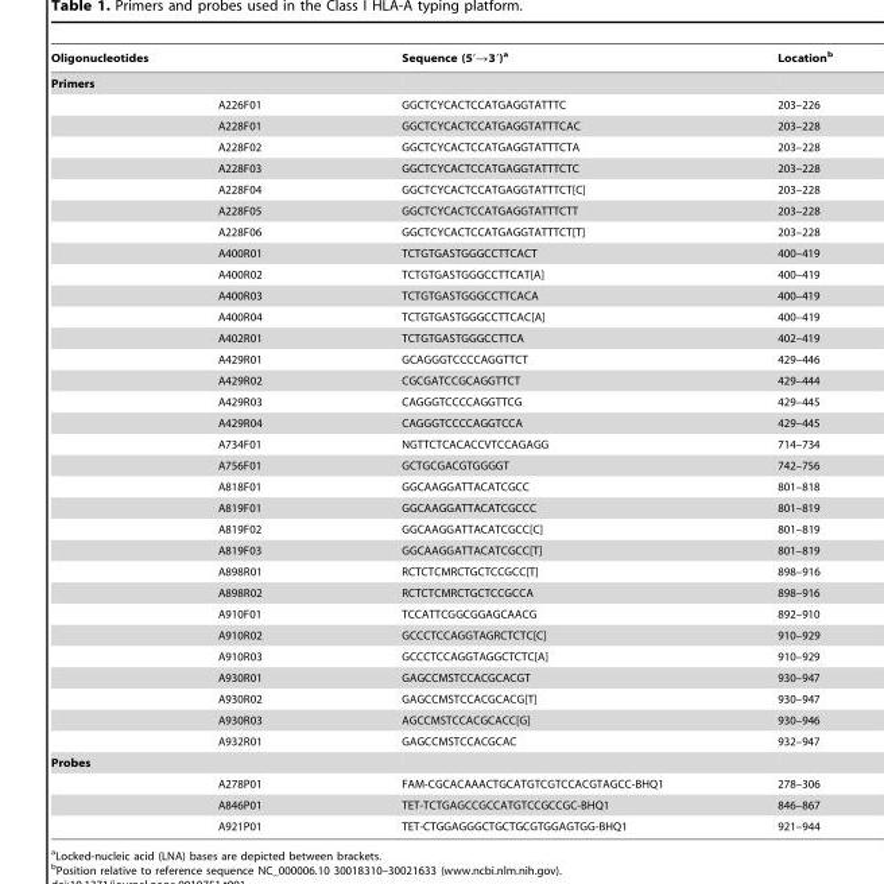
<table><thead><tr><td colspan="2">Oligonucleotides</td><td rowspan="2">Sequence (5′→3′)<sup>a</sup></td><td rowspan="2">Location<sup>b</sup></td></tr><tr><td>Primers</td><td></td></tr></thead><tbody><tr><td></td><td>A226F01</td><td>GGCTCYCACTCCATGAGGTATTTC</td><td>203–226</td></tr><tr><td></td><td>A228F01</td><td>GGCTCYCACTCCATGAGGTATTTCAC</td><td>203–228</td></tr><tr><td></td><td>A228F02</td><td>GGCTCYCACTCCATGAGGTATTTCTA</td><td>203–228</td></tr><tr><td></td><td>A228F03</td><td>GGCTCYCACTCCATGAGGTATTTCTC</td><td>203–228</td></tr><tr><td></td><td>A228F04</td><td>GGCTCYCACTCCATGAGGTATTTCT[C]</td><td>203–228</td></tr><tr><td></td><td>A228F05</td><td>GGCTCYCACTCCATGAGGTATTTCTT</td><td>203–228</td></tr><tr><td></td><td>A228F06</td><td>GGCTCYCACTCCATGAGGTATTTCT[T]</td><td>203–228</td></tr><tr><td></td><td>A400R01</td><td>TCTGTGASTGGGCCTTCACT</td><td>400–419</td></tr><tr><td></td><td>A400R02</td><td>TCTGTGASTGGGCCTTCAT[A]</td><td>400–419</td></tr><tr><td></td><td>A400R03</td><td>TCTGTGASTGGGCCTTCACA</td><td>400–419</td></tr><tr><td></td><td>A400R04</td><td>TCTGTGASTGGGCCTTCAC[A]</td><td>400–419</td></tr><tr><td></td><td>A402R01</td><td>TCTGTGASTGGGCCTTCA</td><td>402–419</td></tr><tr><td></td><td>A429R01</td><td>GCAGGGTCCCCAGGTTCT</td><td>429–446</td></tr><tr><td></td><td>A429R02</td><td>CGCGATCCGCAGGTTCT</td><td>429–444</td></tr><tr><td></td><td>A429R03</td><td>CAGGGTCCCCAGGTTCG</td><td>429–445</td></tr><tr><td></td><td>A429R04</td><td>CAGGGTCCCCAGGTCCA</td><td>429–445</td></tr><tr><td></td><td>A734F01</td><td>NGTTCTCACACCVTCCAGAGG</td><td>714–734</td></tr><tr><td></td><td>A756F01</td><td>GCTGCGACGTGGGGT</td><td>742–756</td></tr><tr><td></td><td>A818F01</td><td>GGCAAGGATTACATCGCC</td><td>801–818</td></tr><tr><td></td><td>A819F01</td><td>GGCAAGGATTACATCGCCC</td><td>801–819</td></tr><tr><td></td><td>A819F02</td><td>GGCAAGGATTACATCGCC[C]</td><td>801–819</td></tr><tr><td></td><td>A819F03</td><td>GGCAAGGATTACATCGCC[T]</td><td>801–819</td></tr><tr><td></td><td>A898R01</td><td>RCTCTCMRCTGCTCCGCC[T]</td><td>898–916</td></tr><tr><td></td><td>A898R02</td><td>RCTCTCMRCTGCTCCGCCA</td><td>898–916</td></tr><tr><td></td><td>A910F01</td><td>TCCATTCGGCGGAGCAACG</td><td>892–910</td></tr><tr><td></td><td>A910R02</td><td>GCCCTCCAGGTAGRCTCTC[C]</td><td>910–929</td></tr><tr><td></td><td>A910R03</td><td>GCCCTCCAGGTAGGCTCTC[A]</td><td>910–929</td></tr><tr><td></td><td>A930R01</td><td>GAGCCMSTCCACGCACGT</td><td>930–947</td></tr><tr><td></td><td>A930R02</td><td>GAGCCMSTCCACGCACG[T]</td><td>930–947</td></tr><tr><td></td><td>A930R03</td><td>AGCCMSTCCACGCACC[G]</td><td>930–946</td></tr><tr><td></td><td>A932R01</td><td>GAGCCMSTCCACGCAC</td><td>932–947</td></tr><tr><td colspan="4">Probes</td></tr><tr><td></td><td>A278P01</td><td>FAM-CGCACAAACTGCATGTCGTCCACGTAGCC-BHQ1</td><td>278–306</td></tr><tr><td></td><td>A846P01</td><td>TET-TCTGAGCCGCCATGTCCGCCGC-BHQ1</td><td>846–867</td></tr><tr><td></td><td>A921P01</td><td>TET-CTGGAGGGCTGCTGCGTGGAGTGG-BHQ1</td><td>921–944</td></tr></tbody></table>